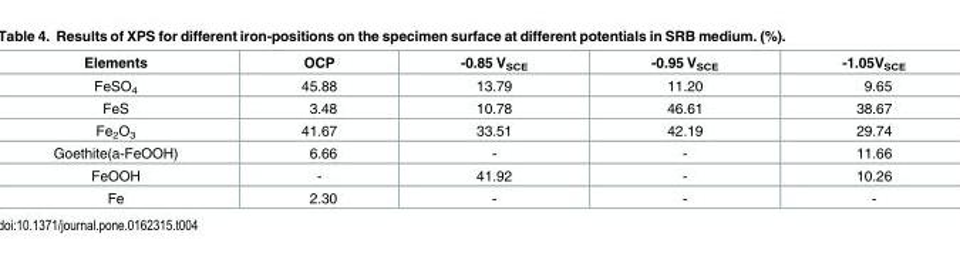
<table><thead><tr><td>Elements</td><td>OCP</td><td>-0.85 V<sub>SCE</sub></td><td>-0.95 V<sub>SCE</sub></td><td>-1.05V<sub>SCE</sub></td></tr></thead><tbody><tr><td>FeSO<sub>4</sub></td><td>45.88</td><td>13.79</td><td>11.20</td><td>9.65</td></tr><tr><td>FeS</td><td>3.48</td><td>10.78</td><td>46.61</td><td>38.67</td></tr><tr><td>Fe<sub>2</sub>O<sub>3</sub></td><td>41.67</td><td>33.51</td><td>42.19</td><td>29.74</td></tr><tr><td>Goethite(a-FeOOH)</td><td>6.66</td><td>-</td><td>-</td><td>11.66</td></tr><tr><td>FeOOH</td><td>-</td><td>41.92</td><td>-</td><td>10.26</td></tr><tr><td>Fe</td><td>2.30</td><td>-</td><td>-</td><td>-</td></tr></tbody></table>